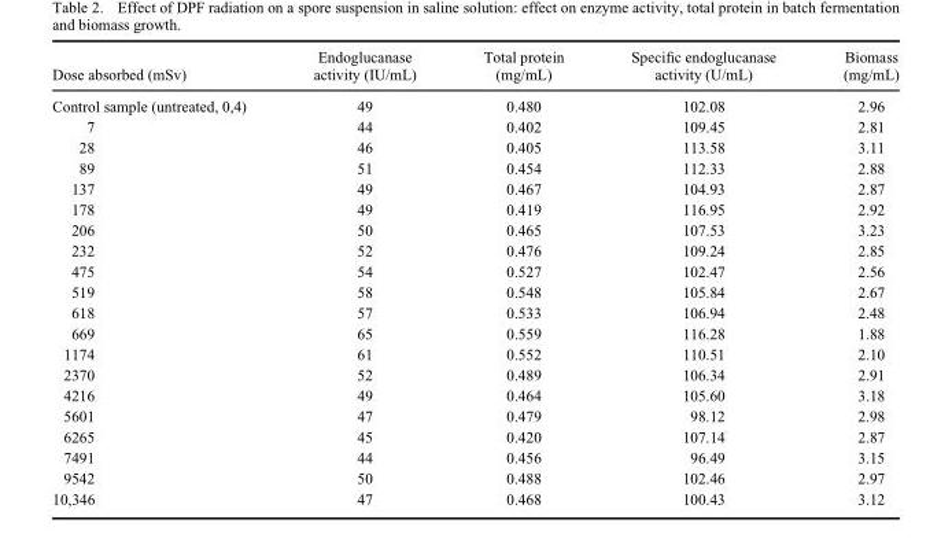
<table><thead><tr><td>Dose absorbed (mSv)</td><td>Endoglucanase activity (IU/mL)</td><td>Total protein (mg/mL)</td><td>Specific endoglucanase activity (U/mL)</td><td>Biomass (mg/mL)</td></tr></thead><tbody><tr><td>Control sample (untreated, 0,4)</td><td>49</td><td>0.480</td><td>102.08</td><td>2.96</td></tr><tr><td>7</td><td>44</td><td>0.402</td><td>109.45</td><td>2.81</td></tr><tr><td>28</td><td>46</td><td>0.405</td><td>113.58</td><td>3.11</td></tr><tr><td>89</td><td>51</td><td>0.454</td><td>112.33</td><td>2.88</td></tr><tr><td>137</td><td>49</td><td>0.467</td><td>104.93</td><td>2.87</td></tr><tr><td>178</td><td>49</td><td>0.419</td><td>116.95</td><td>2.92</td></tr><tr><td>206</td><td>50</td><td>0.465</td><td>107.53</td><td>3.23</td></tr><tr><td>232</td><td>52</td><td>0.476</td><td>109.24</td><td>2.85</td></tr><tr><td>475</td><td>54</td><td>0.527</td><td>102.47</td><td>2.56</td></tr><tr><td>519</td><td>58</td><td>0.548</td><td>105.84</td><td>2.67</td></tr><tr><td>618</td><td>57</td><td>0.533</td><td>106.94</td><td>2.48</td></tr><tr><td>669</td><td>65</td><td>0.559</td><td>116.28</td><td>1.88</td></tr><tr><td>1174</td><td>61</td><td>0.552</td><td>110.51</td><td>2.10</td></tr><tr><td>2370</td><td>52</td><td>0.489</td><td>106.34</td><td>2.91</td></tr><tr><td>4216</td><td>49</td><td>0.464</td><td>105.60</td><td>3.18</td></tr><tr><td>5601</td><td>47</td><td>0.479</td><td>98.12</td><td>2.98</td></tr><tr><td>6265</td><td>45</td><td>0.420</td><td>107.14</td><td>2.87</td></tr><tr><td>7491</td><td>44</td><td>0.456</td><td>96.49</td><td>3.15</td></tr><tr><td>9542</td><td>50</td><td>0.488</td><td>102.46</td><td>2.97</td></tr><tr><td>10,346</td><td>47</td><td>0.468</td><td>100.43</td><td>3.12</td></tr></tbody></table>